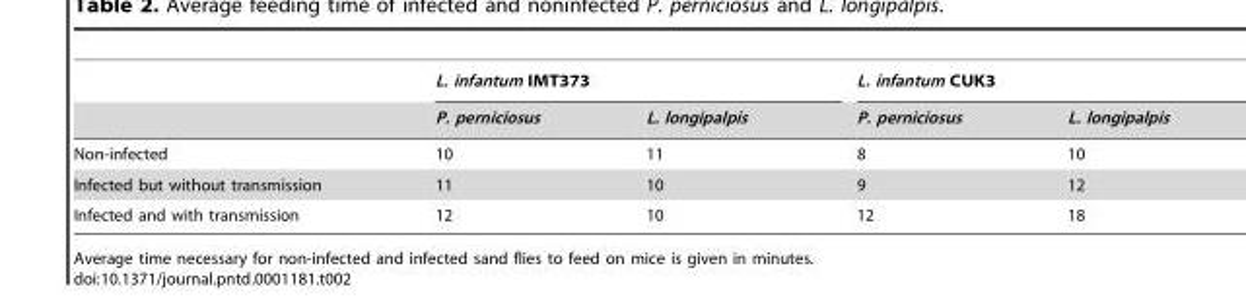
<table><thead><tr><td rowspan="2"></td><td colspan="2">L. infantum IMT373</td><td colspan="2">L. infantum CUK3</td></tr><tr><td>P. perniciosus</td><td>L. longipalpis</td><td>P. perniciosus</td><td>L. longipalpis</td></tr></thead><tbody><tr><td>Non-infected</td><td>10</td><td>11</td><td>8</td><td>10</td></tr><tr><td>Infected but without transmission</td><td>11</td><td>10</td><td>9</td><td>12</td></tr><tr><td>Infected and with transmission</td><td>12</td><td>10</td><td>12</td><td>18</td></tr></tbody></table>